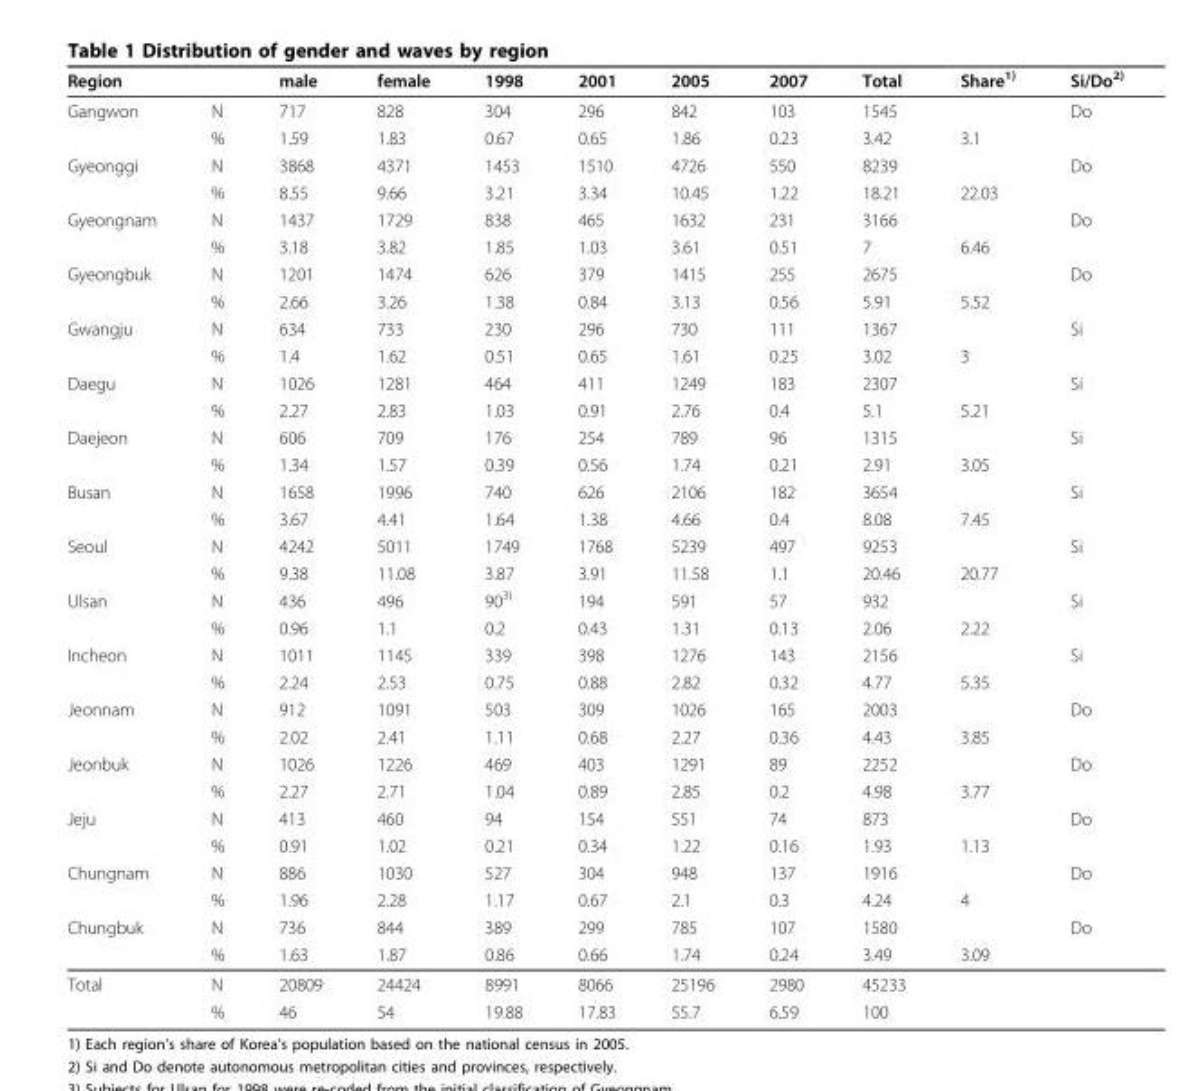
<table><thead><tr><td>Region</td><td></td><td>male</td><td>female</td><td>1998</td><td>2001</td><td>2005</td><td>2007</td><td>Total</td><td>Share<sup>1)</sup></td><td>Si/Do<sup>2)</sup></td></tr></thead><tbody><tr><td rowspan="2">Gangwon</td><td>N</td><td>717</td><td>828</td><td>304</td><td>296</td><td>842</td><td>103</td><td>1545</td><td></td><td>Do</td></tr><tr><td>%</td><td>1.59</td><td>1.83</td><td>0.67</td><td>0.65</td><td>1.86</td><td>0.23</td><td>3.42</td><td>3.1</td><td></td></tr><tr><td rowspan="2">Gyeonggi</td><td>N</td><td>3868</td><td>4371</td><td>1453</td><td>1510</td><td>4726</td><td>550</td><td>8239</td><td></td><td>Do</td></tr><tr><td>%</td><td>8.55</td><td>9.66</td><td>3.21</td><td>3.34</td><td>10.45</td><td>1.22</td><td>18.21</td><td>22.03</td><td></td></tr><tr><td rowspan="2">Gyeongnam</td><td>N</td><td>1437</td><td>1729</td><td>838</td><td>465</td><td>1632</td><td>231</td><td>3166</td><td></td><td>Do</td></tr><tr><td>%</td><td>3.18</td><td>3.82</td><td>1.85</td><td>1.03</td><td>3.61</td><td>0.51</td><td>7</td><td>6.46</td><td></td></tr><tr><td rowspan="2">Gyeongbuk</td><td>N</td><td>1201</td><td>1474</td><td>626</td><td>379</td><td>1415</td><td>255</td><td>2675</td><td></td><td>Do</td></tr><tr><td>%</td><td>2.66</td><td>3.26</td><td>1.38</td><td>0.84</td><td>3.13</td><td>0.56</td><td>5.91</td><td>5.52</td><td></td></tr><tr><td rowspan="2">Gwangju</td><td>N</td><td>634</td><td>733</td><td>230</td><td>296</td><td>730</td><td>111</td><td>1367</td><td></td><td>Si</td></tr><tr><td>%</td><td>1.4</td><td>1.62</td><td>0.51</td><td>0.65</td><td>1.61</td><td>0.25</td><td>3.02</td><td>3</td><td></td></tr><tr><td rowspan="2">Daegu</td><td>N</td><td>1026</td><td>1281</td><td>464</td><td>411</td><td>1249</td><td>183</td><td>2307</td><td></td><td>Si</td></tr><tr><td>%</td><td>2.27</td><td>2.83</td><td>1.03</td><td>0.91</td><td>2.76</td><td>0.4</td><td>5.1</td><td>5.21</td><td></td></tr><tr><td rowspan="2">Daejeon</td><td>N</td><td>606</td><td>709</td><td>176</td><td>254</td><td>789</td><td>96</td><td>1315</td><td></td><td>Si</td></tr><tr><td>%</td><td>1.34</td><td>1.57</td><td>0.39</td><td>0.56</td><td>1.74</td><td>0.21</td><td>2.91</td><td>3.05</td><td></td></tr><tr><td rowspan="2">Busan</td><td>N</td><td>1658</td><td>1996</td><td>740</td><td>626</td><td>2106</td><td>182</td><td>3654</td><td></td><td>Si</td></tr><tr><td>%</td><td>3.67</td><td>4.41</td><td>1.64</td><td>1.38</td><td>4.66</td><td>0.4</td><td>8.08</td><td>7.45</td><td></td></tr><tr><td rowspan="2">Seoul</td><td>N</td><td>4242</td><td>5011</td><td>1749</td><td>1768</td><td>5239</td><td>497</td><td>9253</td><td></td><td>Si</td></tr><tr><td>%</td><td>9.38</td><td>11.08</td><td>3.87</td><td>3.91</td><td>11.58</td><td>1.1</td><td>20.46</td><td>20.77</td><td></td></tr><tr><td rowspan="2">Ulsan</td><td>N</td><td>436</td><td>496</td><td>90<sup>3)</sup></td><td>194</td><td>591</td><td>57</td><td>932</td><td></td><td>Si</td></tr><tr><td>%</td><td>0.96</td><td>1.1</td><td>0.2</td><td>0.43</td><td>1.31</td><td>0.13</td><td>2.06</td><td>2.22</td><td></td></tr><tr><td rowspan="2">Incheon</td><td>N</td><td>1011</td><td>1145</td><td>339</td><td>398</td><td>1276</td><td>143</td><td>2156</td><td></td><td>Si</td></tr><tr><td>%</td><td>2.24</td><td>2.53</td><td>0.75</td><td>0.88</td><td>2.82</td><td>0.32</td><td>4.77</td><td>5.35</td><td></td></tr><tr><td rowspan="2">Jeonnam</td><td>N</td><td>912</td><td>1091</td><td>503</td><td>309</td><td>1026</td><td>165</td><td>2003</td><td></td><td>Do</td></tr><tr><td>%</td><td>2.02</td><td>2.41</td><td>1.11</td><td>0.68</td><td>2.27</td><td>0.36</td><td>4.43</td><td>3.85</td><td></td></tr><tr><td rowspan="2">Jeonbuk</td><td>N</td><td>1026</td><td>1226</td><td>469</td><td>403</td><td>1291</td><td>89</td><td>2252</td><td></td><td>Do</td></tr><tr><td>%</td><td>2.27</td><td>2.71</td><td>1.04</td><td>0.89</td><td>2.85</td><td>0.2</td><td>4.98</td><td>3.77</td><td></td></tr><tr><td rowspan="2">Jeju</td><td>N</td><td>413</td><td>460</td><td>94</td><td>154</td><td>551</td><td>74</td><td>873</td><td></td><td>Do</td></tr><tr><td>%</td><td>0.91</td><td>1.02</td><td>0.21</td><td>0.34</td><td>1.22</td><td>0.16</td><td>1.93</td><td>1.13</td><td></td></tr><tr><td rowspan="2">Chungnam</td><td>N</td><td>886</td><td>1030</td><td>527</td><td>304</td><td>948</td><td>137</td><td>1916</td><td></td><td>Do</td></tr><tr><td>%</td><td>1.96</td><td>2.28</td><td>1.17</td><td>0.67</td><td>2.1</td><td>0.3</td><td>4.24</td><td>4</td><td></td></tr><tr><td rowspan="2">Chungbuk</td><td>N</td><td>736</td><td>844</td><td>389</td><td>299</td><td>785</td><td>107</td><td>1580</td><td></td><td>Do</td></tr><tr><td>%</td><td>1.63</td><td>1.87</td><td>0.86</td><td>0.66</td><td>1.74</td><td>0.24</td><td>3.49</td><td>3.09</td><td></td></tr><tr><td rowspan="2">Total</td><td>N</td><td>20809</td><td>24424</td><td>8991</td><td>8066</td><td>25196</td><td>2980</td><td>45233</td><td></td><td></td></tr><tr><td>%</td><td>46</td><td>54</td><td>19.88</td><td>17.83</td><td>55.7</td><td>6.59</td><td>100</td><td></td><td></td></tr></tbody></table>